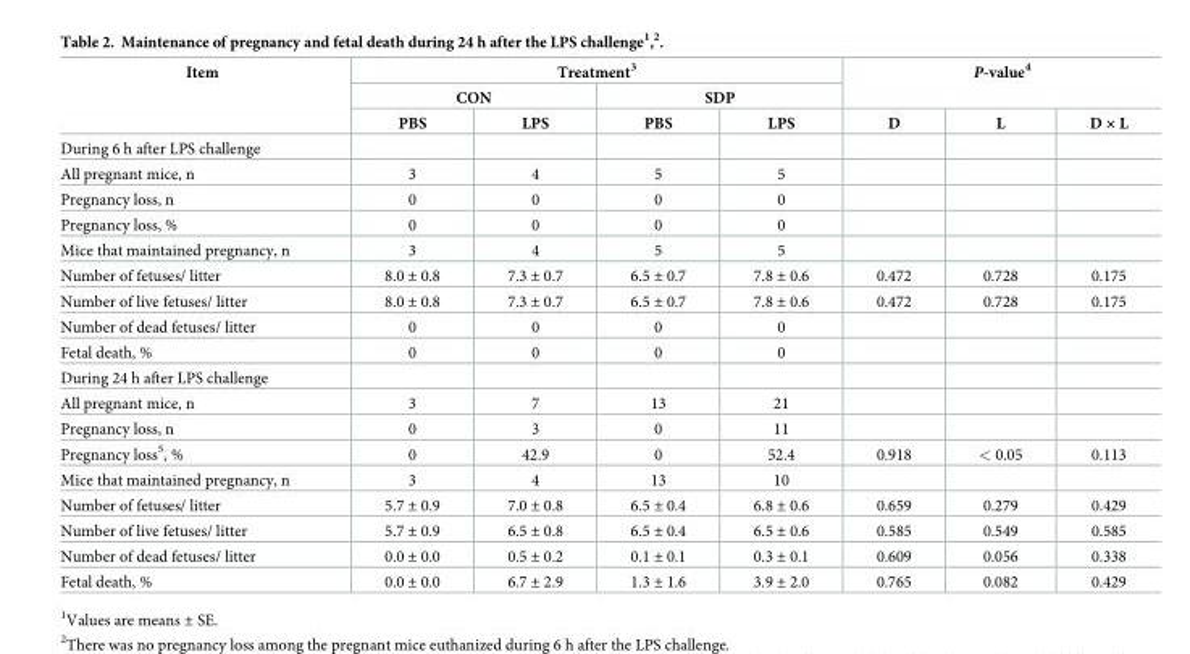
<table><thead><tr><td rowspan="3">Item</td><td colspan="4">Treatment<sup>3</sup></td><td rowspan="2" colspan="3">P-value<sup>4</sup></td></tr><tr><td colspan="2">CON</td><td colspan="2">SDP</td></tr><tr><td>PBS</td><td>LPS</td><td>PBS</td><td>LPS</td><td>D</td><td>L</td><td>D × L</td></tr></thead><tbody><tr><td colspan="8">During 6 h after LPS challenge</td></tr><tr><td>All pregnant mice, n</td><td>3</td><td>4</td><td>5</td><td>5</td><td></td><td></td><td></td></tr><tr><td>Pregnancy loss, n</td><td>0</td><td>0</td><td>0</td><td>0</td><td></td><td></td><td></td></tr><tr><td>Pregnancy loss, %</td><td>0</td><td>0</td><td>0</td><td>0</td><td></td><td></td><td></td></tr><tr><td>Mice that maintained pregnancy, n</td><td>3</td><td>4</td><td>5</td><td>5</td><td></td><td></td><td></td></tr><tr><td>Number of fetuses/ litter</td><td>8.0 ± 0.8</td><td>7.3 ± 0.7</td><td>6.5 ± 0.7</td><td>7.8 ± 0.6</td><td>0.472</td><td>0.728</td><td>0.175</td></tr><tr><td>Number of live fetuses/ litter</td><td>8.0 ± 0.8</td><td>7.3 ± 0.7</td><td>6.5 ± 0.7</td><td>7.8 ± 0.6</td><td>0.472</td><td>0.728</td><td>0.175</td></tr><tr><td>Number of dead fetuses/ litter</td><td>0</td><td>0</td><td>0</td><td>0</td><td></td><td></td><td></td></tr><tr><td>Fetal death, %</td><td>0</td><td>0</td><td>0</td><td>0</td><td></td><td></td><td></td></tr><tr><td colspan="8">During 24 h after LPS challenge</td></tr><tr><td>All pregnant mice, n</td><td>3</td><td>7</td><td>13</td><td>21</td><td></td><td></td><td></td></tr><tr><td>Pregnancy loss, n</td><td>0</td><td>3</td><td>0</td><td>11</td><td></td><td></td><td></td></tr><tr><td>Pregnancy loss<sup>5</sup>, %</td><td>0</td><td>42.9</td><td>0</td><td>52.4</td><td>0.918</td><td>&lt; 0.05</td><td>0.113</td></tr><tr><td>Mice that maintained pregnancy, n</td><td>3</td><td>4</td><td>13</td><td>10</td><td></td><td></td><td></td></tr><tr><td>Number of fetuses/ litter</td><td>5.7 ± 0.9</td><td>7.0 ± 0.8</td><td>6.5 ± 0.4</td><td>6.8 ± 0.6</td><td>0.659</td><td>0.279</td><td>0.429</td></tr><tr><td>Number of live fetuses/ litter</td><td>5.7 ± 0.9</td><td>6.5 ± 0.8</td><td>6.5 ± 0.4</td><td>6.5 ± 0.6</td><td>0.585</td><td>0.549</td><td>0.585</td></tr><tr><td>Number of dead fetuses/ litter</td><td>0.0 ± 0.0</td><td>0.5 ± 0.2</td><td>0.1 ± 0.1</td><td>0.3 ± 0.1</td><td>0.609</td><td>0.056</td><td>0.338</td></tr><tr><td>Fetal death, %</td><td>0.0 ± 0.0</td><td>6.7 ± 2.9</td><td>1.3 ± 1.6</td><td>3.9 ± 2.0</td><td>0.765</td><td>0.082</td><td>0.429</td></tr></tbody></table>